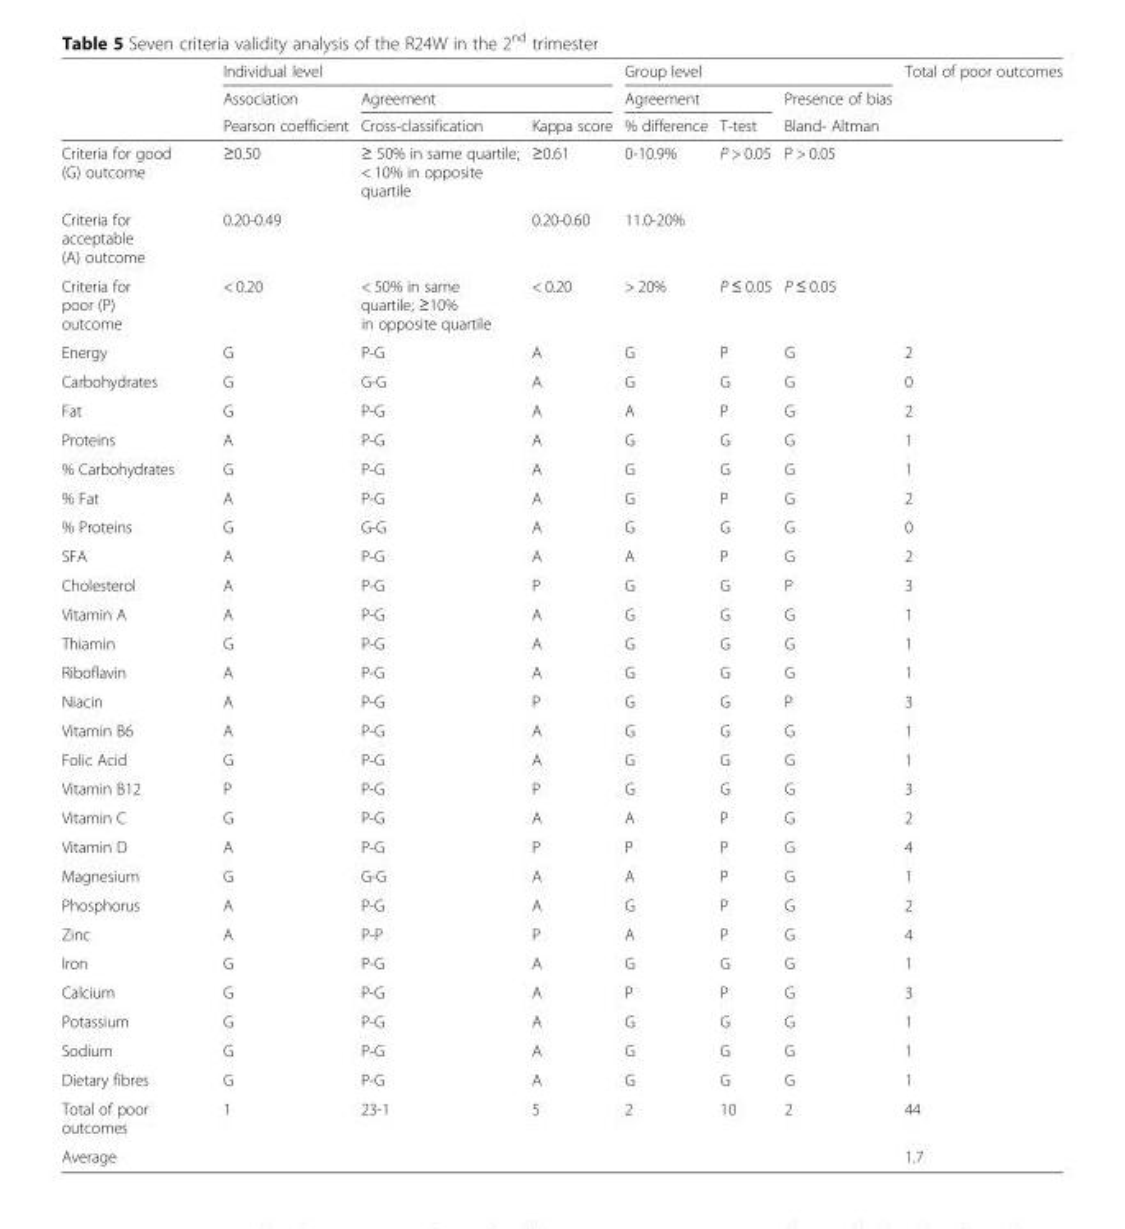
<table><thead><tr><td rowspan="3"></td><td colspan="3">Individual level</td><td colspan="3">Group level</td><td rowspan="3">Total of poor outcomes</td></tr><tr><td rowspan="2">Association Pearson coefficient</td><td colspan="2">Agreement</td><td colspan="2">Agreement</td><td rowspan="2">Presence of bias Bland- Altman</td></tr><tr><td>Cross-classification</td><td>Kappa score</td><td>% difference</td><td>T-test</td></tr></thead><tbody><tr><td>Criteria for good (G) outcome</td><td>≥0.50</td><td>≥ 50% in same quartile; &lt; 10% in opposite quartile</td><td>≥0.61</td><td>0-10.9%</td><td>P &gt; 0.05</td><td>P &gt; 0.05</td><td></td></tr><tr><td>Criteria for acceptable (A) outcome</td><td>0.20-0.49</td><td></td><td>0.20-0.60</td><td>11.0-20%</td><td></td><td></td><td></td></tr><tr><td>Criteria for poor (P) outcome</td><td>&lt; 0.20</td><td>&lt; 50% in same quartile; ≥10% in opposite quartile</td><td>&lt; 0.20</td><td>&gt; 20%</td><td>P ≤ 0.05</td><td>P ≤ 0.05</td><td></td></tr><tr><td>Energy</td><td>G</td><td>P-G</td><td>A</td><td>G</td><td>P</td><td>G</td><td>2</td></tr><tr><td>Carbohydrates</td><td>G</td><td>G-G</td><td>A</td><td>G</td><td>G</td><td>G</td><td>0</td></tr><tr><td>Fat</td><td>G</td><td>P-G</td><td>A</td><td>A</td><td>P</td><td>G</td><td>2</td></tr><tr><td>Proteins</td><td>A</td><td>P-G</td><td>A</td><td>G</td><td>G</td><td>G</td><td>1</td></tr><tr><td>% Carbohydrates</td><td>G</td><td>P-G</td><td>A</td><td>G</td><td>G</td><td>G</td><td>1</td></tr><tr><td>% Fat</td><td>A</td><td>P-G</td><td>A</td><td>G</td><td>P</td><td>G</td><td>2</td></tr><tr><td>% Proteins</td><td>G</td><td>G-G</td><td>A</td><td>G</td><td>G</td><td>G</td><td>0</td></tr><tr><td>SFA</td><td>A</td><td>P-G</td><td>A</td><td>A</td><td>P</td><td>G</td><td>2</td></tr><tr><td>Cholesterol</td><td>A</td><td>P-G</td><td>P</td><td>G</td><td>G</td><td>P</td><td>3</td></tr><tr><td>Vitamin A</td><td>A</td><td>P-G</td><td>A</td><td>G</td><td>G</td><td>G</td><td>1</td></tr><tr><td>Thiamin</td><td>G</td><td>P-G</td><td>A</td><td>G</td><td>G</td><td>G</td><td>1</td></tr><tr><td>Riboflavin</td><td>A</td><td>P-G</td><td>A</td><td>G</td><td>G</td><td>G</td><td>1</td></tr><tr><td>Niacin</td><td>A</td><td>P-G</td><td>P</td><td>G</td><td>G</td><td>P</td><td>3</td></tr><tr><td>Vitamin B6</td><td>A</td><td>P-G</td><td>A</td><td>G</td><td>G</td><td>G</td><td>1</td></tr><tr><td>Folic Acid</td><td>G</td><td>P-G</td><td>A</td><td>G</td><td>G</td><td>G</td><td>1</td></tr><tr><td>Vitamin B12</td><td>P</td><td>P-G</td><td>P</td><td>G</td><td>G</td><td>G</td><td>3</td></tr><tr><td>Vitamin C</td><td>G</td><td>P-G</td><td>A</td><td>A</td><td>P</td><td>G</td><td>2</td></tr><tr><td>Vitamin D</td><td>A</td><td>P-G</td><td>P</td><td>P</td><td>P</td><td>G</td><td>4</td></tr><tr><td>Magnesium</td><td>G</td><td>G-G</td><td>A</td><td>A</td><td>P</td><td>G</td><td>1</td></tr><tr><td>Phosphorus</td><td>A</td><td>P-G</td><td>A</td><td>G</td><td>P</td><td>G</td><td>2</td></tr><tr><td>Zinc</td><td>A</td><td>P-P</td><td>P</td><td>A</td><td>P</td><td>G</td><td>4</td></tr><tr><td>Iron</td><td>G</td><td>P-G</td><td>A</td><td>G</td><td>G</td><td>G</td><td>1</td></tr><tr><td>Calcium</td><td>G</td><td>P-G</td><td>A</td><td>P</td><td>P</td><td>G</td><td>3</td></tr><tr><td>Potassium</td><td>G</td><td>P-G</td><td>A</td><td>G</td><td>G</td><td>G</td><td>1</td></tr><tr><td>Sodium</td><td>G</td><td>P-G</td><td>A</td><td>G</td><td>G</td><td>G</td><td>1</td></tr><tr><td>Dietary fibres</td><td>G</td><td>P-G</td><td>A</td><td>G</td><td>G</td><td>G</td><td>1</td></tr><tr><td>Total of poor outcomes</td><td>1</td><td>23-1</td><td>5</td><td>2</td><td>10</td><td>2</td><td>44</td></tr><tr><td>Average</td><td></td><td></td><td></td><td></td><td></td><td></td><td>1.7</td></tr></tbody></table>